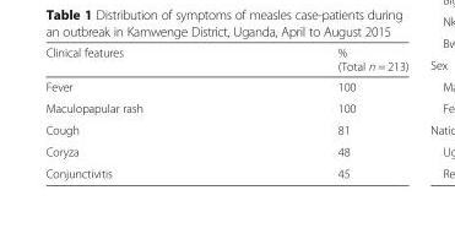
<table><thead><tr><td>Clinical features</td><td>% (Total n = 213)</td></tr></thead><tbody><tr><td>Fever</td><td>100</td></tr><tr><td>Maculopapular rash</td><td>100</td></tr><tr><td>Cough</td><td>81</td></tr><tr><td>Coryza</td><td>48</td></tr><tr><td>Conjunctivitis</td><td>45</td></tr></tbody></table>